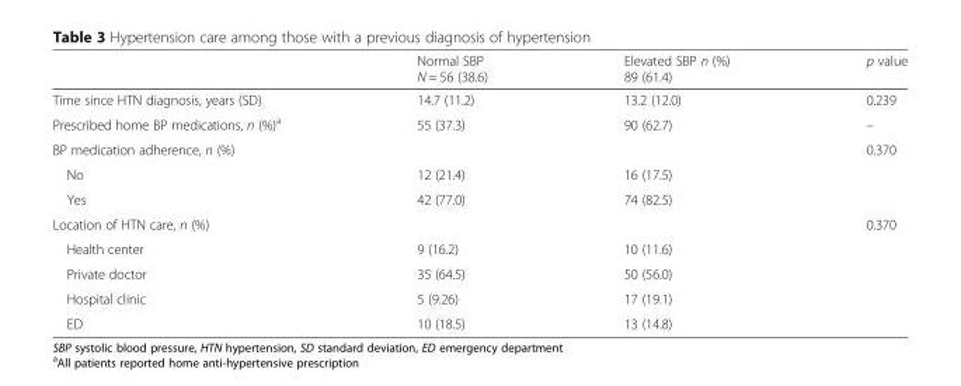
<table><thead><tr><td></td><td>Normal SBP N = 56 (38.6)</td><td>Elevated SBP n (%) 89 (61.4)</td><td>p value</td></tr></thead><tbody><tr><td>Time since HTN diagnosis, years (SD)</td><td>14.7 (11.2)</td><td>13.2 (12.0)</td><td>0.239</td></tr><tr><td>Prescribed home BP medications, n (%)<sup>a</sup></td><td>55 (37.3)</td><td>90 (62.7)</td><td>–</td></tr><tr><td>BP medication adherence, n (%)</td><td></td><td></td><td>0.370</td></tr><tr><td>No</td><td>12 (21.4)</td><td>16 (17.5)</td><td></td></tr><tr><td>Yes</td><td>42 (77.0)</td><td>74 (82.5)</td><td></td></tr><tr><td>Location of HTN care, n (%)</td><td></td><td></td><td>0.370</td></tr><tr><td>Health center</td><td>9 (16.2)</td><td>10 (11.6)</td><td></td></tr><tr><td>Private doctor</td><td>35 (64.5)</td><td>50 (56.0)</td><td></td></tr><tr><td>Hospital clinic</td><td>5 (9.26)</td><td>17 (19.1)</td><td></td></tr><tr><td>ED</td><td>10 (18.5)</td><td>13 (14.8)</td><td></td></tr></tbody></table>